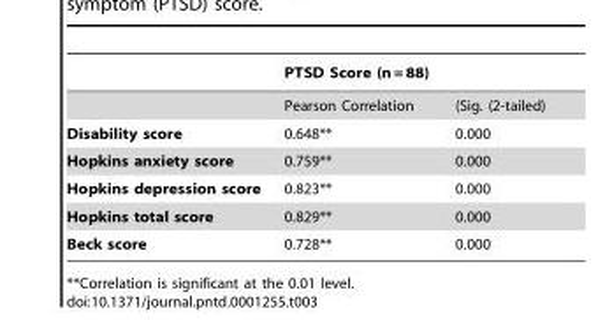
<table><thead><tr><td rowspan="2"></td><td colspan="2">PTSD Score (n = 88)</td></tr><tr><td>Pearson Correlation</td><td>(Sig. (2-tailed)</td></tr></thead><tbody><tr><td>Disability score</td><td>0.648**</td><td>0.000</td></tr><tr><td>Hopkins anxiety score</td><td>0.759**</td><td>0.000</td></tr><tr><td>Hopkins depression score</td><td>0.823**</td><td>0.000</td></tr><tr><td>Hopkins total score</td><td>0.829**</td><td>0.000</td></tr><tr><td>Beck score</td><td>0.728**</td><td>0.000</td></tr></tbody></table>